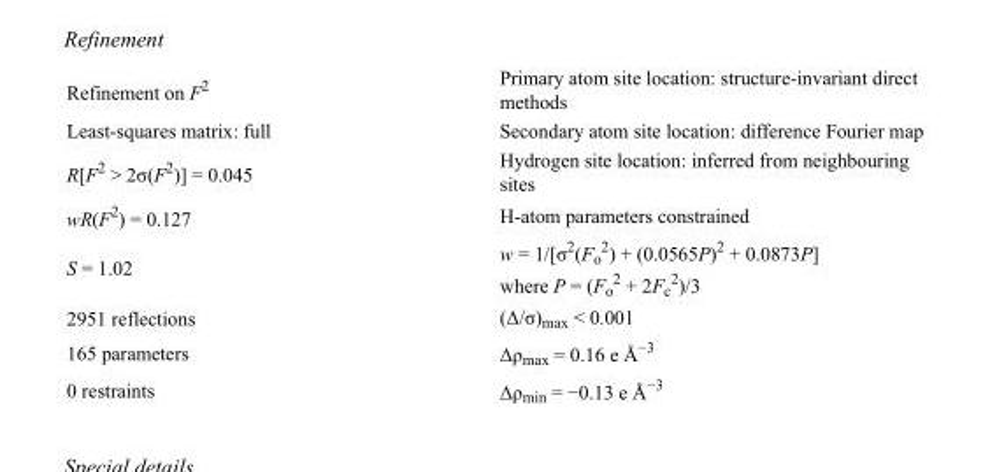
<table><tbody><tr><td>Refinement on F<sup>2</sup></td><td>Primary atom site location: structure-invariant direct methods</td></tr><tr><td>Least-squares matrix: full</td><td>Secondary atom site location: difference Fourier map</td></tr><tr><td>R[F<sup>2</sup> &gt; 2σ(F<sup>2</sup>)] = 0.045</td><td>Hydrogen site location: inferred from neighbouring sites</td></tr><tr><td>wR(F<sup>2</sup>) = 0.127</td><td>H-atom parameters constrained</td></tr><tr><td>S = 1.02</td><td>w = 1/[σ<sup>2</sup>(F<sub>o</sub> <sup>2</sup>) + (0.0565P)<sup>2</sup> + 0.0873P] where P = (F<sub>o</sub> <sup>2</sup> + 2F<sub>c</sub> <sup>2</sup>)/3</td></tr><tr><td>2951 reflections</td><td>(Δ/σ)<sub>max</sub> &lt; 0.001</td></tr><tr><td>165 parameters</td><td>Δρ<sub>max</sub> = 0.16 e Å<sup>−3</sup></td></tr><tr><td>0 restraints</td><td>Δρ<sub>min</sub> = −0.13 e Å<sup>−3</sup></td></tr></tbody></table>